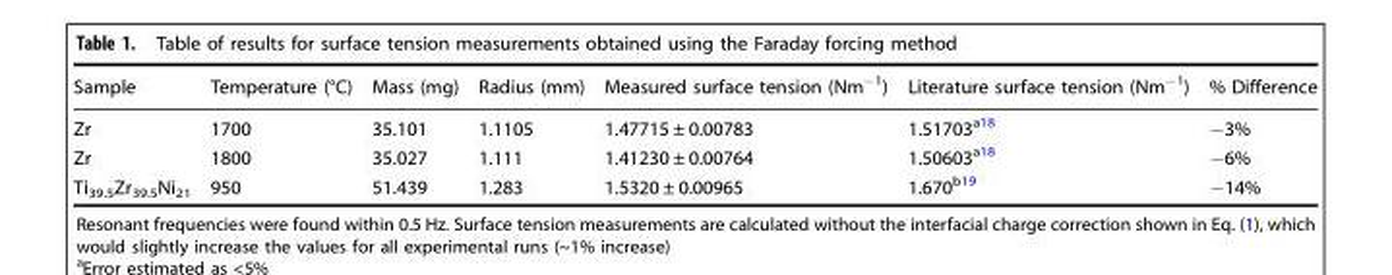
<table><thead><tr><td>Sample</td><td>Temperature (°C)</td><td>Mass (mg)</td><td>Radius (mm)</td><td>Measured surface tension (Nm<sup>−1</sup>)</td><td>Literature surface tension (Nm<sup>−1</sup>)</td><td>% Difference</td></tr></thead><tbody><tr><td>Zr</td><td>1700</td><td>35.101</td><td>1.1105</td><td>1.47715 ± 0.00783</td><td>1.51703<sup>a18</sup></td><td>−3%</td></tr><tr><td>Zr</td><td>1800</td><td>35.027</td><td>1.111</td><td>1.41230 ± 0.00764</td><td>1.50603<sup>a18</sup></td><td>−6%</td></tr><tr><td>Ti<sub>39.5</sub>Zr<sub>39.5</sub>Ni<sub>21</sub></td><td>950</td><td>51.439</td><td>1.283</td><td>1.5320 ± 0.00965</td><td>1.670<sup>b19</sup></td><td>−14%</td></tr></tbody></table>